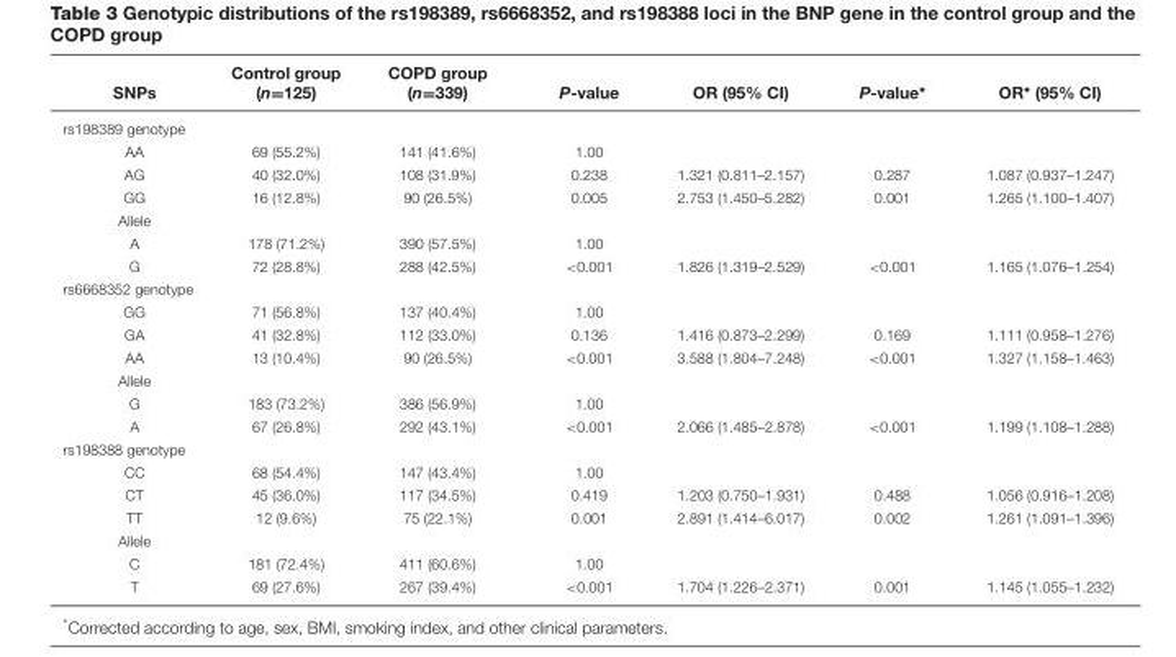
<table><thead><tr><td>SNPs</td><td>Control group (n=125)</td><td>COPD group (n=339)</td><td>P-value</td><td>OR (95% CI)</td><td>P-value*</td><td>OR* (95% CI)</td></tr></thead><tbody><tr><td colspan="7">rs198389 genotype</td></tr><tr><td>AA</td><td>69 (55.2%)</td><td>141 (41.6%)</td><td>1.00</td><td></td><td></td><td></td></tr><tr><td>AG</td><td>40 (32.0%)</td><td>108 (31.9%)</td><td>0.238</td><td>1.321 (0.811–2.157)</td><td>0.287</td><td>1.087 (0.937–1.247)</td></tr><tr><td>GG</td><td>16 (12.8%)</td><td>90 (26.5%)</td><td>0.005</td><td>2.753 (1.450–5.282)</td><td>0.001</td><td>1.265 (1.100–1.407)</td></tr><tr><td colspan="7">Allele</td></tr><tr><td>A</td><td>178 (71.2%)</td><td>390 (57.5%)</td><td>1.00</td><td></td><td></td><td></td></tr><tr><td>G</td><td>72 (28.8%)</td><td>288 (42.5%)</td><td>&lt;0.001</td><td>1.826 (1.319–2.529)</td><td>&lt;0.001</td><td>1.165 (1.076–1.254)</td></tr><tr><td colspan="7">rs6668352 genotype</td></tr><tr><td>GG</td><td>71 (56.8%)</td><td>137 (40.4%)</td><td>1.00</td><td></td><td></td><td></td></tr><tr><td>GA</td><td>41 (32.8%)</td><td>112 (33.0%)</td><td>0.136</td><td>1.416 (0.873–2.299)</td><td>0.169</td><td>1.111 (0.958–1.276)</td></tr><tr><td>AA</td><td>13 (10.4%)</td><td>90 (26.5%)</td><td>&lt;0.001</td><td>3.588 (1.804–7.248)</td><td>&lt;0.001</td><td>1.327 (1.158–1.463)</td></tr><tr><td colspan="7">Allele</td></tr><tr><td>G</td><td>183 (73.2%)</td><td>386 (56.9%)</td><td>1.00</td><td></td><td></td><td></td></tr><tr><td>A</td><td>67 (26.8%)</td><td>292 (43.1%)</td><td>&lt;0.001</td><td>2.066 (1.485–2.878)</td><td>&lt;0.001</td><td>1.199 (1.108–1.288)</td></tr><tr><td colspan="7">rs198388 genotype</td></tr><tr><td>CC</td><td>68 (54.4%)</td><td>147 (43.4%)</td><td>1.00</td><td></td><td></td><td></td></tr><tr><td>CT</td><td>45 (36.0%)</td><td>117 (34.5%)</td><td>0.419</td><td>1.203 (0.750–1.931)</td><td>0.488</td><td>1.056 (0.916–1.208)</td></tr><tr><td>TT</td><td>12 (9.6%)</td><td>75 (22.1%)</td><td>0.001</td><td>2.891 (1.414–6.017)</td><td>0.002</td><td>1.261 (1.091–1.396)</td></tr><tr><td colspan="7">Allele</td></tr><tr><td>C</td><td>181 (72.4%)</td><td>411 (60.6%)</td><td>1.00</td><td></td><td></td><td></td></tr><tr><td>T</td><td>69 (27.6%)</td><td>267 (39.4%)</td><td>&lt;0.001</td><td>1.704 (1.226–2.371)</td><td>0.001</td><td>1.145 (1.055–1.232)</td></tr></tbody></table>